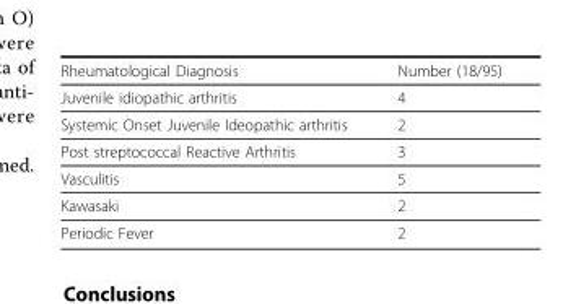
<table><thead><tr><td>Rheumatological Diagnosis</td><td>Number (18/95)</td></tr></thead><tbody><tr><td>Juvenile idiopathic arthritis</td><td>4</td></tr><tr><td>Systemic Onset Juvenile Ideopathic arthritis</td><td>2</td></tr><tr><td>Post streptococcal Reactive Arthritis</td><td>3</td></tr><tr><td>Vasculitis</td><td>5</td></tr><tr><td>Kawasaki</td><td>2</td></tr><tr><td>Periodic Fever</td><td>2</td></tr></tbody></table>